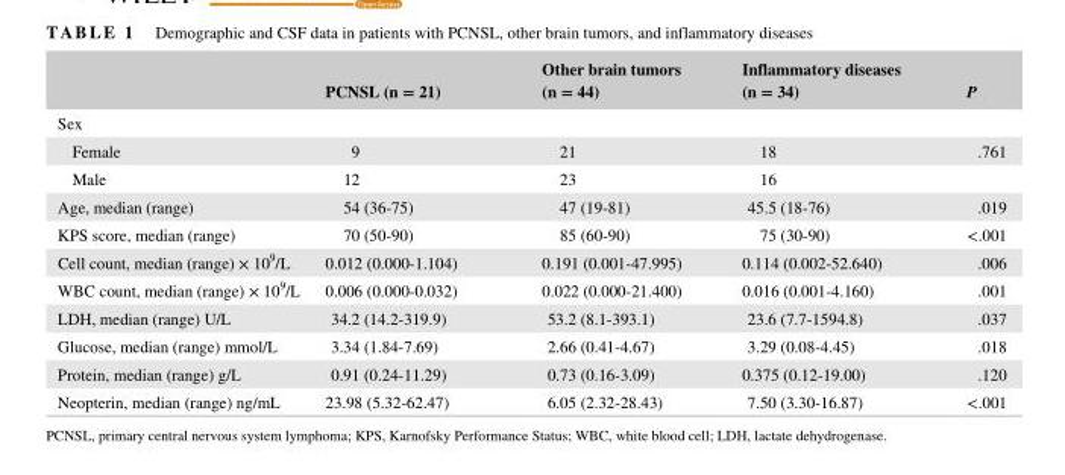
<table><thead><tr><td></td><td>PCNSL (n = 21)</td><td>Other brain tumors (n = 44)</td><td>Inflammatory diseases (n = 34)</td><td>P</td></tr></thead><tbody><tr><td colspan="5">Sex</td></tr><tr><td>Female</td><td>9</td><td>21</td><td>18</td><td>.761</td></tr><tr><td>Male</td><td>12</td><td>23</td><td>16</td><td></td></tr><tr><td>Age, median (range)</td><td>54 (36- 75)</td><td>47 (19- 81)</td><td>45.5 (18- 76)</td><td>.019</td></tr><tr><td>KPS score, median (range)</td><td>70 (50- 90)</td><td>85 (60- 90)</td><td>75 (30- 90)</td><td>&lt;.001</td></tr><tr><td>Cell count, median (range) × 10<sup>9</sup>/L</td><td>0.012 (0.000- 1.104)</td><td>0.191 (0.001- 47.995)</td><td>0.114 (0.002- 52.640)</td><td>.006</td></tr><tr><td>WBC count, median (range) × 10<sup>9</sup>/L</td><td>0.006 (0.000- 0.032)</td><td>0.022 (0.000- 21.400)</td><td>0.016 (0.001- 4.160)</td><td>.001</td></tr><tr><td>LDH, median (range) U/L</td><td>34.2 (14.2- 319.9)</td><td>53.2 (8.1- 393.1)</td><td>23.6 (7.7- 1594.8)</td><td>.037</td></tr><tr><td>Glucose, median (range) mmol/L</td><td>3.34 (1.84- 7.69)</td><td>2.66 (0.41- 4.67)</td><td>3.29 (0.08- 4.45)</td><td>.018</td></tr><tr><td>Protein, median (range) g/L</td><td>0.91 (0.24- 11.29)</td><td>0.73 (0.16- 3.09)</td><td>0.375 (0.12- 19.00)</td><td>.120</td></tr><tr><td>Neopterin, median (range) ng/mL</td><td>23.98 (5.32- 62.47)</td><td>6.05 (2.32- 28.43)</td><td>7.50 (3.30- 16.87)</td><td>&lt;.001</td></tr></tbody></table>